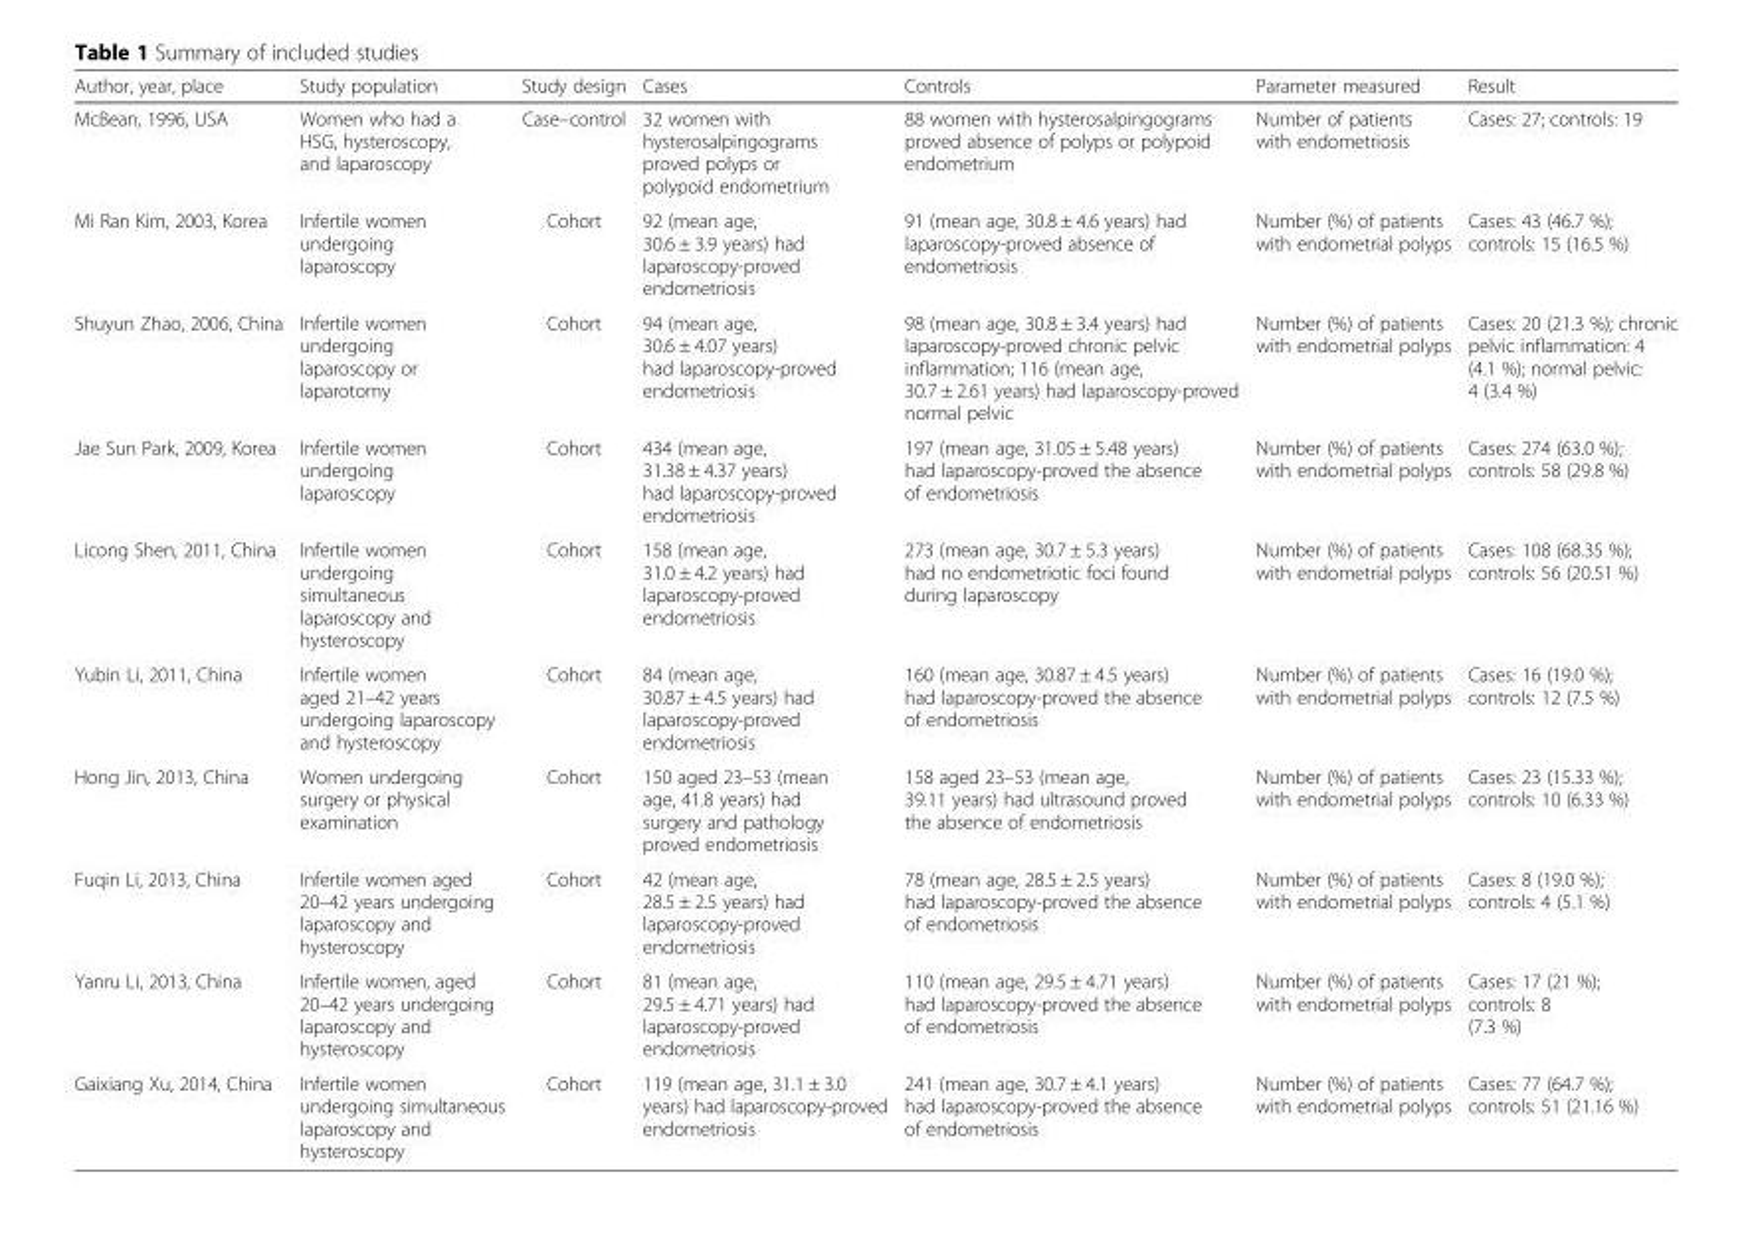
<table><thead><tr><td>Author, year, place</td><td>Study population</td><td>Study design</td><td>Cases</td><td>Controls</td><td>Parameter measured</td><td>Result</td></tr></thead><tbody><tr><td>McBean, 1996, USA</td><td>Women who had a HSG, hysteroscopy, and laparoscopy</td><td>Case–control</td><td>32 women with hysterosalpingograms proved polyps or polypoid endometrium</td><td>88 women with hysterosalpingograms proved absence of polyps or polypoid endometrium</td><td>Number of patients with endometriosis</td><td>Cases: 27; controls: 19</td></tr><tr><td>Mi Ran Kim, 2003, Korea</td><td>Infertile women undergoing laparoscopy</td><td>Cohort</td><td>92 (mean age, 30.6 ± 3.9 years) had laparoscopy-proved endometriosis</td><td>91 (mean age, 30.8 ± 4.6 years) had laparoscopy-proved absence of endometriosis</td><td>Number (%) of patients with endometrial polyps</td><td>Cases: 43 (46.7 %); controls: 15 (16.5 %)</td></tr><tr><td>Shuyun Zhao, 2006, China</td><td>Infertile women undergoing laparoscopy or laparotomy</td><td>Cohort</td><td>94 (mean age, 30.6 ± 4.07 years) had laparoscopy-proved endometriosis</td><td>98 (mean age, 30.8 ± 3.4 years) had laparoscopy-proved chronic pelvic inflammation; 116 (mean age, 30.7 ± 2.61 years) had laparoscopy-proved normal pelvic</td><td>Number (%) of patients with endometrial polyps</td><td>Cases: 20 (21.3 %); chronic pelvic inflammation: 4 (4.1 %); normal pelvic: 4 (3.4 %)</td></tr><tr><td>Jae Sun Park, 2009, Korea</td><td>Infertile women undergoing laparoscopy</td><td>Cohort</td><td>434 (mean age, 31.38 ± 4.37 years) had laparoscopy-proved endometriosis</td><td>197 (mean age, 31.05 ± 5.48 years) had laparoscopy-proved the absence of endometriosis</td><td>Number (%) of patients with endometrial polyps</td><td>Cases: 274 (63.0 %); controls: 58 (29.8 %)</td></tr><tr><td>Licong Shen, 2011, China</td><td>Infertile women undergoing simultaneous laparoscopy and hysteroscopy</td><td>Cohort</td><td>158 (mean age, 31.0 ± 4.2 years) had laparoscopy-proved endometriosis</td><td>273 (mean age, 30.7 ± 5.3 years) had no endometriotic foci found during laparoscopy</td><td>Number (%) of patients with endometrial polyps</td><td>Cases: 108 (68.35 %); controls: 56 (20.51 %)</td></tr><tr><td>Yubin Li, 2011, China</td><td>Infertile women aged 21–42 years undergoing laparoscopy and hysteroscopy</td><td>Cohort</td><td>84 (mean age, 30.87 ± 4.5 years) had laparoscopy-proved endometriosis</td><td>160 (mean age, 30.87 ± 4.5 years) had laparoscopy-proved the absence of endometriosis</td><td>Number (%) of patients with endometrial polyps</td><td>Cases: 16 (19.0 %); controls: 12 (7.5 %)</td></tr><tr><td>Hong Jin, 2013, China</td><td>Women undergoing surgery or physical examination</td><td>Cohort</td><td>150 aged 23–53 (mean age, 41.8 years) had surgery and pathology proved endometriosis</td><td>158 aged 23–53 (mean age, 39.11 years) had ultrasound proved the absence of endometriosis</td><td>Number (%) of patients with endometrial polyps</td><td>Cases: 23 (15.33 %); controls: 10 (6.33 %)</td></tr><tr><td>Fuqin Li, 2013, China</td><td>Infertile women aged 20–42 years undergoing laparoscopy and hysteroscopy</td><td>Cohort</td><td>42 (mean age, 28.5 ± 2.5 years) had laparoscopy-proved endometriosis</td><td>78 (mean age, 28.5 ± 2.5 years) had laparoscopy-proved the absence of endometriosis</td><td>Number (%) of patients with endometrial polyps</td><td>Cases: 8 (19.0 %); controls: 4 (5.1 %)</td></tr><tr><td>Yanru Li, 2013, China</td><td>Infertile women, aged 20–42 years undergoing laparoscopy and hysteroscopy</td><td>Cohort</td><td>81 (mean age, 29.5 ± 4.71 years) had laparoscopy-proved endometriosis</td><td>110 (mean age, 29.5 ± 4.71 years) had laparoscopy-proved the absence of endometriosis</td><td>Number (%) of patients with endometrial polyps</td><td>Cases: 17 (21 %); controls: 8 (7.3 %)</td></tr><tr><td>Gaixiang Xu, 2014, China</td><td>Infertile women undergoing simultaneous laparoscopy and hysteroscopy</td><td>Cohort</td><td>119 (mean age, 31.1 ± 3.0 years) had laparoscopy-proved endometriosis</td><td>241 (mean age, 30.7 ± 4.1 years) had laparoscopy-proved the absence of endometriosis</td><td>Number (%) of patients with endometrial polyps</td><td>Cases: 77 (64.7 %); controls: 51 (21.16 %)</td></tr></tbody></table>